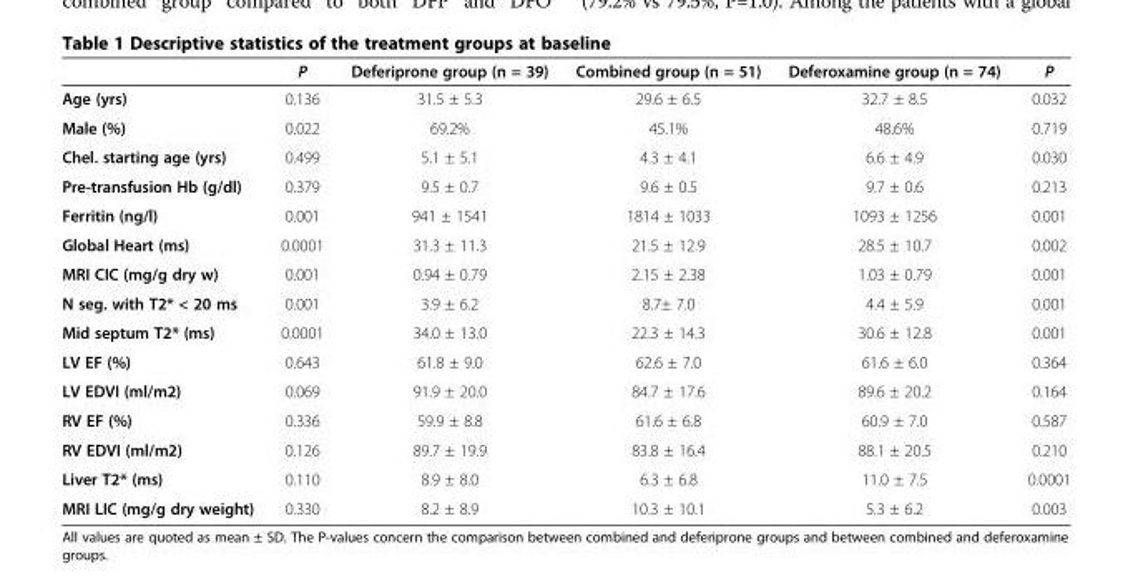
<table><thead><tr><td></td><td>P</td><td>Deferiprone group (n = 39)</td><td>Combined group (n = 51)</td><td>Deferoxamine group (n = 74)</td><td>P</td></tr></thead><tbody><tr><td>Age (yrs)</td><td>0.136</td><td>31.5 ± 5.3</td><td>29.6 ± 6.5</td><td>32.7 ± 8.5</td><td>0.032</td></tr><tr><td>Male (%)</td><td>0.022</td><td>69.2%</td><td>45.1%</td><td>48.6%</td><td>0.719</td></tr><tr><td>Chel. starting age (yrs)</td><td>0.499</td><td>5.1 ± 5.1</td><td>4.3 ± 4.1</td><td>6.6 ± 4.9</td><td>0.030</td></tr><tr><td>Pre-transfusion Hb (g/dl)</td><td>0.379</td><td>9.5 ± 0.7</td><td>9.6 ± 0.5</td><td>9.7 ± 0.6</td><td>0.213</td></tr><tr><td>Ferritin (ng/l)</td><td>0.001</td><td>941 ± 1541</td><td>1814 ± 1033</td><td>1093 ± 1256</td><td>0.001</td></tr><tr><td>Global Heart (ms)</td><td>0.0001</td><td>31.3 ± 11.3</td><td>21.5 ± 12.9</td><td>28.5 ± 10.7</td><td>0.002</td></tr><tr><td>MRI CIC (mg/g dry w)</td><td>0.001</td><td>0.94 ± 0.79</td><td>2.15 ± 2.38</td><td>1.03 ± 0.79</td><td>0.001</td></tr><tr><td>N seg. with T2* &lt; 20 ms</td><td>0.001</td><td>3.9 ± 6.2</td><td>8.7± 7.0</td><td>4.4 ± 5.9</td><td>0.001</td></tr><tr><td>Mid septum T2* (ms)</td><td>0.0001</td><td>34.0 ± 13.0</td><td>22.3 ± 14.3</td><td>30.6 ± 12.8</td><td>0.001</td></tr><tr><td>LV EF (%)</td><td>0.643</td><td>61.8 ± 9.0</td><td>62.6 ± 7.0</td><td>61.6 ± 6.0</td><td>0.364</td></tr><tr><td>LV EDVI (ml/m2)</td><td>0.069</td><td>91.9 ± 20.0</td><td>84.7 ± 17.6</td><td>89.6 ± 20.2</td><td>0.164</td></tr><tr><td>RV EF (%)</td><td>0.336</td><td>59.9 ± 8.8</td><td>61.6 ± 6.8</td><td>60.9 ± 7.0</td><td>0.587</td></tr><tr><td>RV EDVI (ml/m2)</td><td>0.126</td><td>89.7 ± 19.9</td><td>83.8 ± 16.4</td><td>88.1 ± 20.5</td><td>0.210</td></tr><tr><td>Liver T2* (ms)</td><td>0.110</td><td>8.9 ± 8.0</td><td>6.3 ± 6.8</td><td>11.0 ± 7.5</td><td>0.0001</td></tr><tr><td>MRI LIC (mg/g dry weight)</td><td>0.330</td><td>8.2 ± 8.9</td><td>10.3 ± 10.1</td><td>5.3 ± 6.2</td><td>0.003</td></tr></tbody></table>